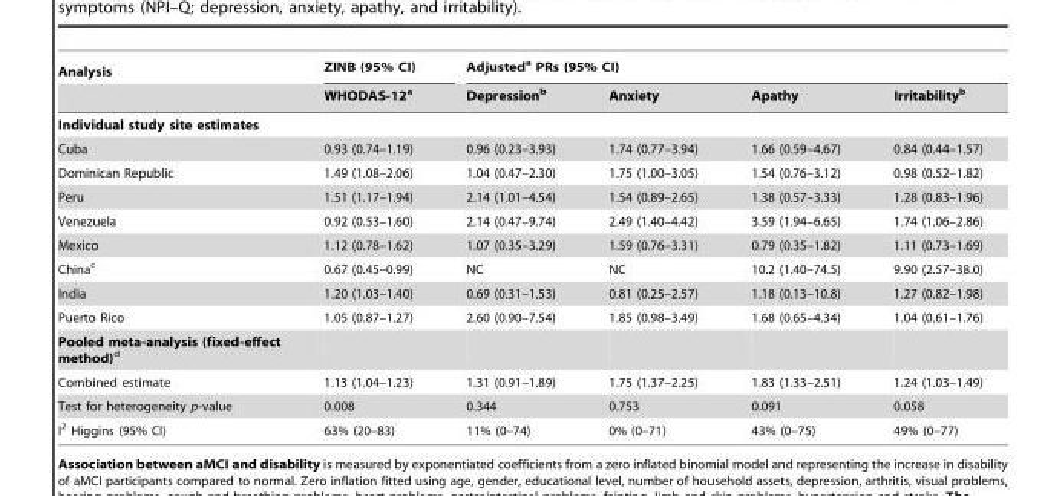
<table><thead><tr><td rowspan="2">Analysis</td><td rowspan="2">ZINB (95% CI) WHODAS-12<sup>a</sup></td><td colspan="4">Adjusted<sup>a</sup> PRs (95% CI)</td></tr><tr><td>Depression<sup>b</sup></td><td>Anxiety</td><td>Apathy</td><td>Irritability<sup>b</sup></td></tr></thead><tbody><tr><td colspan="6">Individual study site estimates</td></tr><tr><td>Cuba</td><td>0.93 (0.74–1.19)</td><td>0.96 (0.23–3.93)</td><td>1.74 (0.77–3.94)</td><td>1.66 (0.59–4.67)</td><td>0.84 (0.44–1.57)</td></tr><tr><td>Dominican Republic</td><td>1.49 (1.08–2.06)</td><td>1.04 (0.47–2.30)</td><td>1.75 (1.00–3.05)</td><td>1.54 (0.76–3.12)</td><td>0.98 (0.52–1.82)</td></tr><tr><td>Peru</td><td>1.51 (1.17–1.94)</td><td>2.14 (1.01–4.54)</td><td>1.54 (0.89–2.65)</td><td>1.38 (0.57–3.33)</td><td>1.28 (0.83–1.96)</td></tr><tr><td>Venezuela</td><td>0.92 (0.53–1.60)</td><td>2.14 (0.47–9.74)</td><td>2.49 (1.40–4.42)</td><td>3.59 (1.94–6.65)</td><td>1.74 (1.06–2.86)</td></tr><tr><td>Mexico</td><td>1.12 (0.78–1.62)</td><td>1.07 (0.35–3.29)</td><td>1.59 (0.76–3.31)</td><td>0.79 (0.35–1.82)</td><td>1.11 (0.73–1.69)</td></tr><tr><td>China<sup>c</sup></td><td>0.67 (0.45–0.99)</td><td>NC</td><td>NC</td><td>10.2 (1.40–74.5)</td><td>9.90 (2.57–38.0)</td></tr><tr><td>India</td><td>1.20 (1.03–1.40)</td><td>0.69 (0.31–1.53)</td><td>0.81 (0.25–2.57)</td><td>1.18 (0.13–10.8)</td><td>1.27 (0.82–1.98)</td></tr><tr><td>Puerto Rico</td><td>1.05 (0.87–1.27)</td><td>2.60 (0.90–7.54)</td><td>1.85 (0.98–3.49)</td><td>1.68 (0.65–4.34)</td><td>1.04 (0.61–1.76)</td></tr><tr><td colspan="6">Pooled meta-analysis (fixed-effect method)d</td></tr><tr><td>Combined estimate</td><td>1.13 (1.04–1.23)</td><td>1.31 (0.91–1.89)</td><td>1.75 (1.37–2.25)</td><td>1.83 (1.33–2.51)</td><td>1.24 (1.03–1.49)</td></tr><tr><td>Test for heterogeneity p-value</td><td>0.008</td><td>0.344</td><td>0.753</td><td>0.091</td><td>0.058</td></tr><tr><td>I<sup>2</sup> Higgins (95% CI)</td><td>63% (20–83)</td><td>11% (0–74)</td><td>0% (0–71)</td><td>43% (0–75)</td><td>49% (0–77)</td></tr></tbody></table>